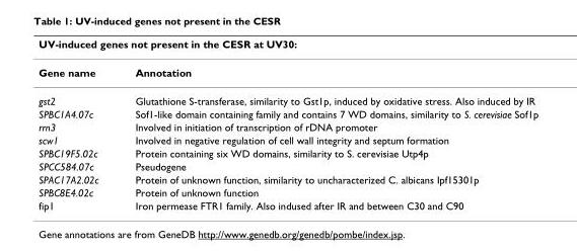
<table><thead><tr><td colspan="2">UV-induced genes not present in the CESR at UV30:</td></tr><tr><td>Gene name</td><td>Annotation</td></tr></thead><tbody><tr><td>gst2</td><td>Glutathione S-transferase, similarity to Gst1p, induced by oxidative stress. Also induced by IR</td></tr><tr><td>SPBC1A4.07c</td><td>Sof1-like domain containing family and contains 7 WD domains, similarity to S. cerevisiae Sof1p</td></tr><tr><td>rrn3</td><td>Involved in initiation of transcription of rDNA promoter</td></tr><tr><td>scw1</td><td>Involved in negative regulation of cell wall integrity and septum formation</td></tr><tr><td>SPBC19F5.02c</td><td>Protein containing six WD domains, similarity to S. cerevisiae Utp4p</td></tr><tr><td>SPCC584.07c</td><td>Pseudogene</td></tr><tr><td>SPAC17A2.02c</td><td>Protein of unknown function, similarity to uncharacterized C. albicans Ipf15301p</td></tr><tr><td>SPBC8E4.02c</td><td>Protein of unknown function</td></tr><tr><td>fip1</td><td>Iron permease FTR1 family. Also indused after IR and between C30 and C90</td></tr></tbody></table>